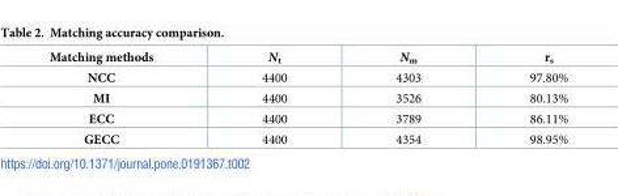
<table><thead><tr><td>Matching methods</td><td>N<sub>t</sub></td><td>N<sub>m</sub></td><td>r<sub>s</sub></td></tr></thead><tbody><tr><td>NCC</td><td>4400</td><td>4303</td><td>97.80%</td></tr><tr><td>MI</td><td>4400</td><td>3526</td><td>80.13%</td></tr><tr><td>ECC</td><td>4400</td><td>3789</td><td>86.11%</td></tr><tr><td>GECC</td><td>4400</td><td>4354</td><td>98.95%</td></tr></tbody></table>